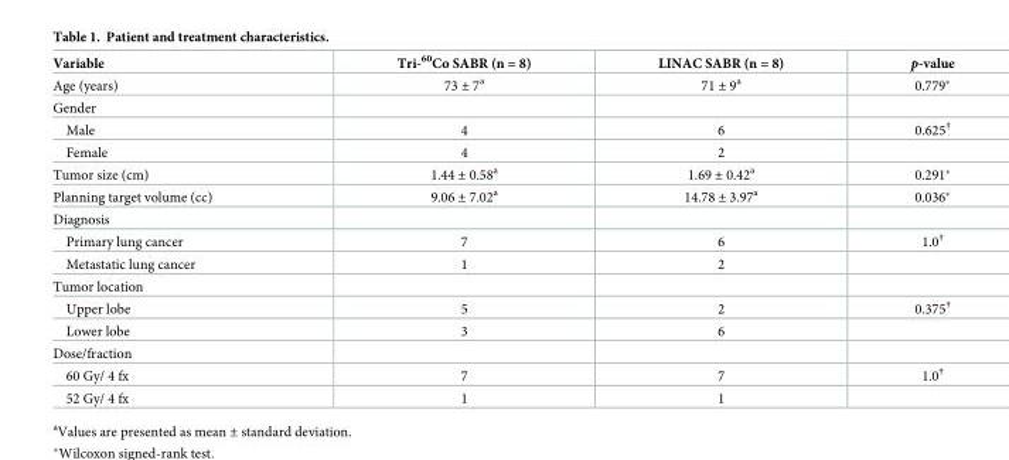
<table><thead><tr><td>Variable</td><td>Tri-<sup>60</sup>Co SABR (n = 8)</td><td>LINAC SABR (n = 8)</td><td>p-value</td></tr></thead><tbody><tr><td>Age (years)</td><td>73 ± 7<sup>a</sup></td><td>71 ± 9<sup>a</sup></td><td>0.779*</td></tr><tr><td colspan="4">Gender</td></tr><tr><td>Male</td><td>4</td><td>6</td><td>0.625<sup>†</sup></td></tr><tr><td>Female</td><td>4</td><td>2</td><td></td></tr><tr><td>Tumor size (cm)</td><td>1.44 ± 0.58<sup>a</sup></td><td>1.69 ± 0.42<sup>a</sup></td><td>0.291*</td></tr><tr><td>Planning target volume (cc)</td><td>9.06 ± 7.02<sup>a</sup></td><td>14.78 ± 3.97<sup>a</sup></td><td>0.036*</td></tr><tr><td colspan="4">Diagnosis</td></tr><tr><td>Primary lung cancer</td><td>7</td><td>6</td><td>1.0<sup>†</sup></td></tr><tr><td>Metastatic lung cancer</td><td>1</td><td>2</td><td></td></tr><tr><td colspan="4">Tumor location</td></tr><tr><td>Upper lobe</td><td>5</td><td>2</td><td>0.375<sup>†</sup></td></tr><tr><td>Lower lobe</td><td>3</td><td>6</td><td></td></tr><tr><td colspan="4">Dose/fraction</td></tr><tr><td>60 Gy/ 4 fx</td><td>7</td><td>7</td><td>1.0<sup>†</sup></td></tr><tr><td>52 Gy/ 4 fx</td><td>1</td><td>1</td><td></td></tr></tbody></table>